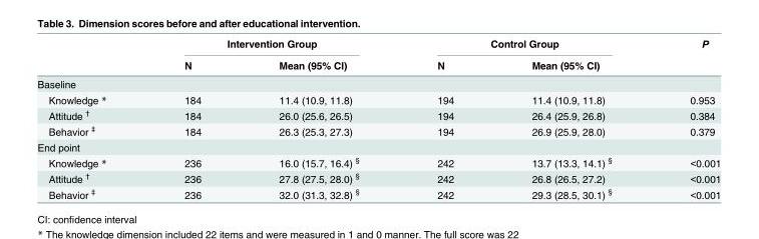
<table><thead><tr><td rowspan="2"></td><td colspan="2">Intervention Group</td><td colspan="2">Control Group</td><td rowspan="2">P</td></tr><tr><td>N</td><td>Mean (95% CI)</td><td>N</td><td>Mean (95% CI)</td></tr></thead><tbody><tr><td colspan="6">Baseline</td></tr><tr><td>Knowledge *</td><td>184</td><td>11.4 (10.9, 11.8)</td><td>194</td><td>11.4 (10.9, 11.8)</td><td>0.953</td></tr><tr><td>Attitude <sup>†</sup></td><td>184</td><td>26.0 (25.6, 26.5)</td><td>194</td><td>26.4 (25.9, 26.8)</td><td>0.384</td></tr><tr><td>Behavior <sup>‡</sup></td><td>184</td><td>26.3 (25.3, 27.3)</td><td>194</td><td>26.9 (25.9, 28.0)</td><td>0.379</td></tr><tr><td colspan="6">End point</td></tr><tr><td>Knowledge *</td><td>236</td><td>16.0 (15.7, 16.4) <sup>§</sup></td><td>242</td><td>13.7 (13.3, 14.1) <sup>§</sup></td><td>&lt;0.001</td></tr><tr><td>Attitude <sup>†</sup></td><td>236</td><td>27.8 (27.5, 28.0) <sup>§</sup></td><td>242</td><td>26.8 (26.5, 27.2)</td><td>&lt;0.001</td></tr><tr><td>Behavior <sup>‡</sup></td><td>236</td><td>32.0 (31.3, 32.8) <sup>§</sup></td><td>242</td><td>29.3 (28.5, 30.1) <sup>§</sup></td><td>&lt;0.001</td></tr></tbody></table>